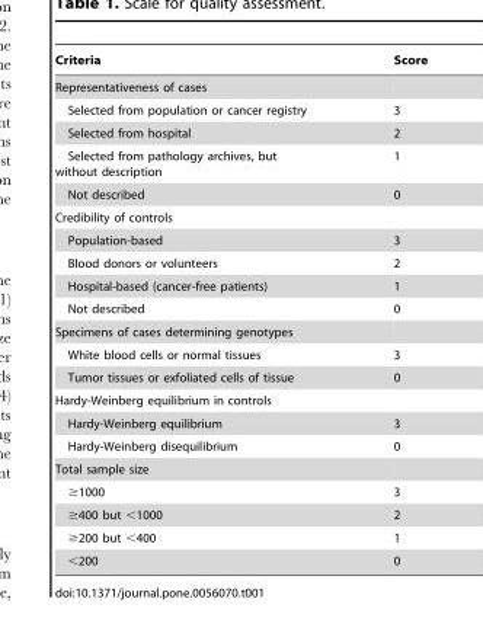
<table><thead><tr><td>Criteria</td><td>Score</td></tr></thead><tbody><tr><td colspan="2">Representativeness of cases</td></tr><tr><td>Selected from population or cancer registry</td><td>3</td></tr><tr><td>Selected from hospital</td><td>2</td></tr><tr><td>Selected from pathology archives, but without description</td><td>1</td></tr><tr><td>Not described</td><td>0</td></tr><tr><td colspan="2">Credibility of controls</td></tr><tr><td>Population-based</td><td>3</td></tr><tr><td>Blood donors or volunteers</td><td>2</td></tr><tr><td>Hospital-based (cancer-free patients)</td><td>1</td></tr><tr><td>Not described</td><td>0</td></tr><tr><td colspan="2">Specimens of cases determining genotypes</td></tr><tr><td>White blood cells or normal tissues</td><td>3</td></tr><tr><td>Tumor tissues or exfoliated cells of tissue</td><td>0</td></tr><tr><td colspan="2">Hardy-Weinberg equilibrium in controls</td></tr><tr><td>Hardy-Weinberg equilibrium</td><td>3</td></tr><tr><td>Hardy-Weinberg disequilibrium</td><td>0</td></tr><tr><td colspan="2">Total sample size</td></tr><tr><td>≥1000</td><td>3</td></tr><tr><td>≥400 but &lt;1000</td><td>2</td></tr><tr><td>≥200 but &lt;400</td><td>1</td></tr><tr><td>&lt;200</td><td>0</td></tr></tbody></table>